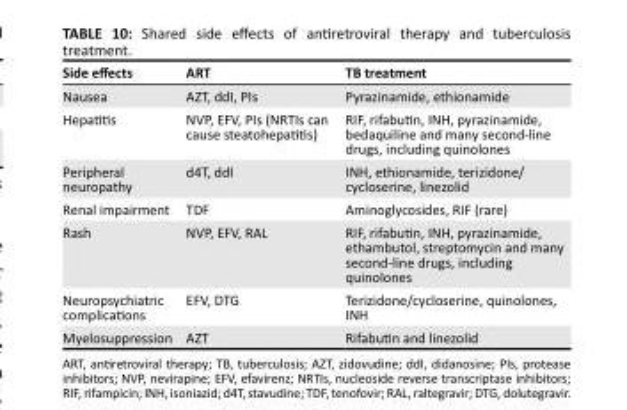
<table><thead><tr><td>Side effects</td><td>ART</td><td>TB treatment</td></tr></thead><tbody><tr><td>Nausea</td><td>AZT, ddI, PIs</td><td>Pyrazinamide, ethionamide</td></tr><tr><td>Hepatitis</td><td>NVP, EFV, PIs (NRTIs can cause steatohepatitis)</td><td>RIF, rifabutin, INH, pyrazinamide, bedaquiline and many second-line drugs, including quinolones</td></tr><tr><td>Peripheral neuropathy</td><td>d4T, ddI</td><td>INH, ethionamide, terizidone/ cycloserine, linezolid</td></tr><tr><td>Renal impairment</td><td>TDF</td><td>Aminoglycosides, RIF (rare)</td></tr><tr><td>Rash</td><td>NVP, EFV, RAL</td><td>RIF, rifabutin, INH, pyrazinamide, ethambutol, streptomycin and many second-line drugs, including quinolones</td></tr><tr><td>Neuropsychiatric complications</td><td>EFV, DTG</td><td>Terizidone/cycloserine, quinolones, INH</td></tr><tr><td>Myelosuppression</td><td>AZT</td><td>Rifabutin and linezolid</td></tr></tbody></table>